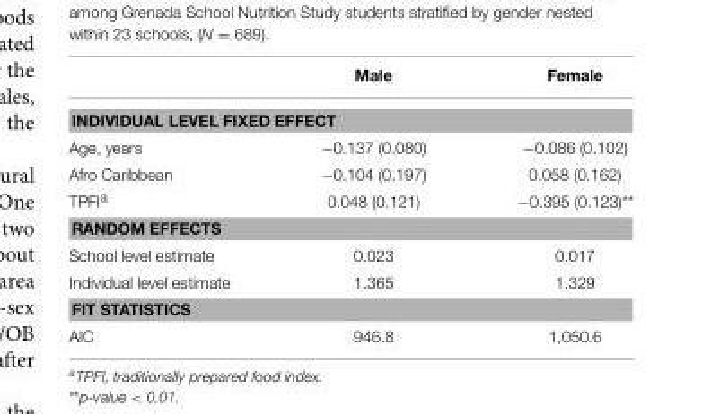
<table><thead><tr><td></td><td>Male</td><td>Female</td></tr></thead><tbody><tr><td colspan="3">INDIVIDUAL LEVEL FIXED EFFECT</td></tr><tr><td>Age, years</td><td>−0.137 (0.080)</td><td>−0.086 (0.102)</td></tr><tr><td>Afro Caribbean</td><td>−0.104 (0.197)</td><td>0.058 (0.162)</td></tr><tr><td>TPFI<sup>a</sup></td><td>0.048 (0.121)</td><td>−0.395 (0.123)**</td></tr><tr><td colspan="3">RANDOM EFFECTS</td></tr><tr><td>School level estimate</td><td>0.023</td><td>0.017</td></tr><tr><td>Individual level estimate</td><td>1.365</td><td>1.329</td></tr><tr><td colspan="3">FIT STATISTICS</td></tr><tr><td>AIC</td><td>946.8</td><td>1,050.6</td></tr></tbody></table>